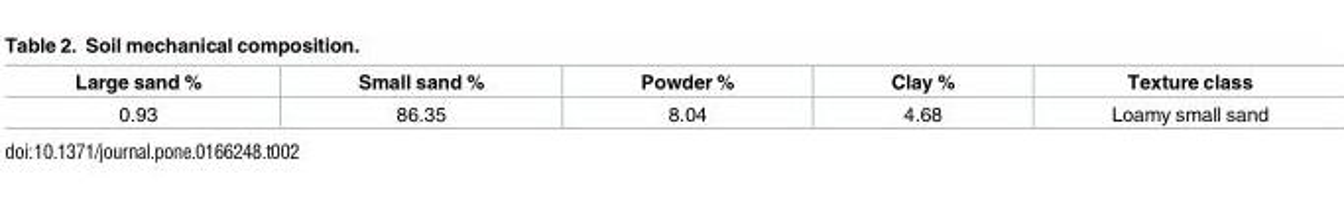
<table><thead><tr><td>Large sand %</td><td>Small sand %</td><td>Powder %</td><td>Clay %</td><td>Texture class</td></tr></thead><tbody><tr><td>0.93</td><td>86.35</td><td>8.04</td><td>4.68</td><td>Loamy small sand</td></tr></tbody></table>